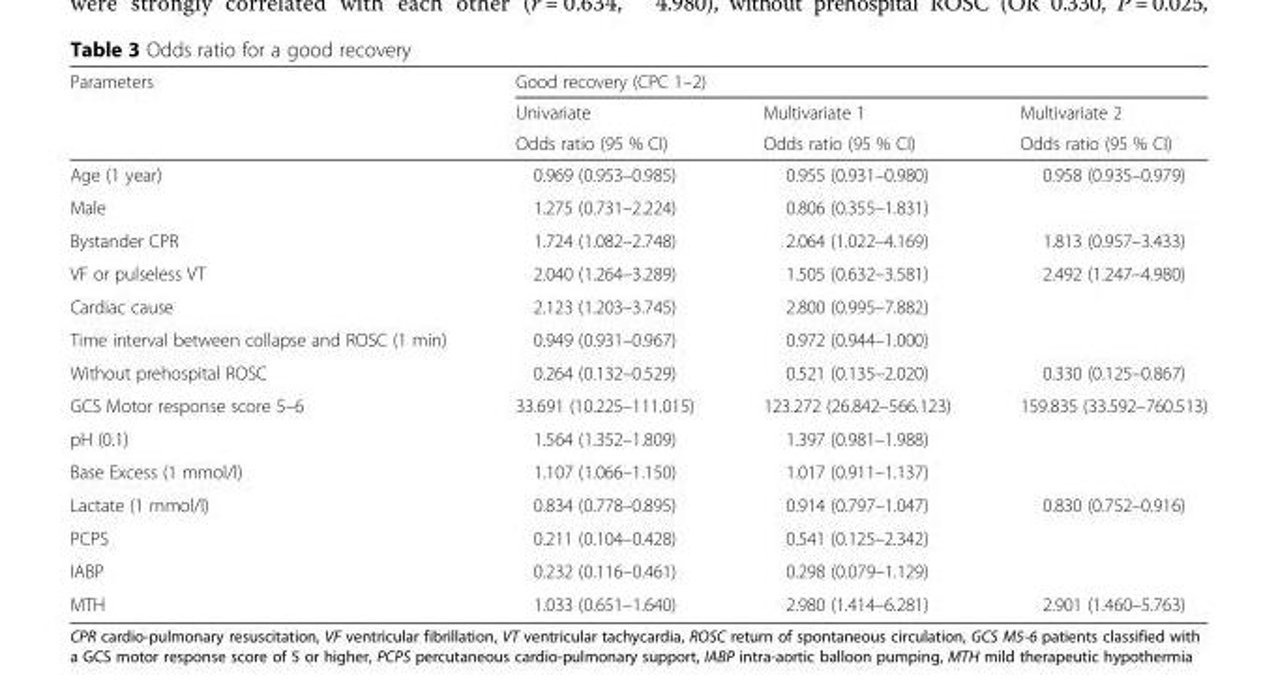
<table><thead><tr><td rowspan="3">Parameters</td><td colspan="3">Good recovery (CPC 1–2)</td></tr><tr><td rowspan="2">Univariate Odds ratio (95 % CI)</td><td rowspan="2">Multivariate 1 Odds ratio (95 % CI)</td><td rowspan="2">Multivariate 2 Odds ratio (95 % CI)</td></tr><tr></tr></thead><tbody><tr><td>Age (1 year)</td><td>0.969 (0.953–0.985)</td><td>0.955 (0.931–0.980)</td><td>0.958 (0.935–0.979)</td></tr><tr><td>Male</td><td>1.275 (0.731–2.224)</td><td>0.806 (0.355–1.831)</td><td></td></tr><tr><td>Bystander CPR</td><td>1.724 (1.082–2.748)</td><td>2.064 (1.022–4.169)</td><td>1.813 (0.957–3.433)</td></tr><tr><td>VF or pulseless VT</td><td>2.040 (1.264–3.289)</td><td>1.505 (0.632–3.581)</td><td>2.492 (1.247–4.980)</td></tr><tr><td>Cardiac cause</td><td>2.123 (1.203–3.745)</td><td>2.800 (0.995–7.882)</td><td></td></tr><tr><td>Time interval between collapse and ROSC (1 min)</td><td>0.949 (0.931–0.967)</td><td>0.972 (0.944–1.000)</td><td></td></tr><tr><td>Without prehospital ROSC</td><td>0.264 (0.132–0.529)</td><td>0.521 (0.135–2.020)</td><td>0.330 (0.125–0.867)</td></tr><tr><td>GCS Motor response score 5–6</td><td>33.691 (10.225–111.015)</td><td>123.272 (26.842–566.123)</td><td>159.835 (33.592–760.513)</td></tr><tr><td>pH (0.1)</td><td>1.564 (1.352–1.809)</td><td>1.397 (0.981–1.988)</td><td></td></tr><tr><td>Base Excess (1 mmol/l)</td><td>1.107 (1.066–1.150)</td><td>1.017 (0.911–1.137)</td><td></td></tr><tr><td>Lactate (1 mmol/l)</td><td>0.834 (0.778–0.895)</td><td>0.914 (0.797–1.047)</td><td>0.830 (0.752–0.916)</td></tr><tr><td>PCPS</td><td>0.211 (0.104–0.428)</td><td>0.541 (0.125–2.342)</td><td></td></tr><tr><td>IABP</td><td>0.232 (0.116–0.461)</td><td>0.298 (0.079–1.129)</td><td></td></tr><tr><td>MTH</td><td>1.033 (0.651–1.640)</td><td>2.980 (1.414–6.281)</td><td>2.901 (1.460–5.763)</td></tr></tbody></table>